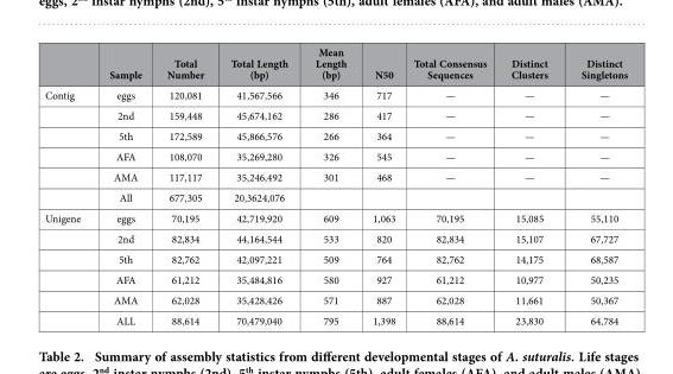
<table><thead><tr><td></td><td>Sample</td><td>Total Number</td><td>Total Length (bp)</td><td>Mean Length (bp)</td><td>N50</td><td>Total Consensus Sequences</td><td>Distinct Clusters</td><td>Distinct Singletons</td></tr></thead><tbody><tr><td rowspan="6">Contig</td><td>eggs</td><td>120,081</td><td>41,567,566</td><td>346</td><td>717</td><td>—</td><td>—</td><td>—</td></tr><tr><td>2nd</td><td>159,448</td><td>45,674,162</td><td>286</td><td>417</td><td>—</td><td>—</td><td>—</td></tr><tr><td>5th</td><td>172,589</td><td>45,866,576</td><td>266</td><td>364</td><td>—</td><td>—</td><td>—</td></tr><tr><td>AFA</td><td>108,070</td><td>35,269,280</td><td>326</td><td>545</td><td>—</td><td>—</td><td>—</td></tr><tr><td>AMA</td><td>117,117</td><td>35,246,492</td><td>301</td><td>468</td><td>—</td><td>—</td><td>—</td></tr><tr><td>All</td><td>677,305</td><td>20,3624,076</td><td></td><td></td><td></td><td></td><td></td></tr><tr><td rowspan="6">Unigene</td><td>eggs</td><td>70,195</td><td>42,719,920</td><td>609</td><td>1,063</td><td>70,195</td><td>15,085</td><td>55,110</td></tr><tr><td>2nd</td><td>82,834</td><td>44,164,544</td><td>533</td><td>820</td><td>82,834</td><td>15,107</td><td>67,727</td></tr><tr><td>5th</td><td>82,762</td><td>42,097,221</td><td>509</td><td>764</td><td>82,762</td><td>14,175</td><td>68,587</td></tr><tr><td>AFA</td><td>61,212</td><td>35,484,816</td><td>580</td><td>927</td><td>61,212</td><td>10,977</td><td>50,235</td></tr><tr><td>AMA</td><td>62,028</td><td>35,428,426</td><td>571</td><td>887</td><td>62,028</td><td>11,661</td><td>50,367</td></tr><tr><td>ALL</td><td>88,614</td><td>70,479,040</td><td>795</td><td>1,398</td><td>88,614</td><td>23,830</td><td>64,784</td></tr></tbody></table>